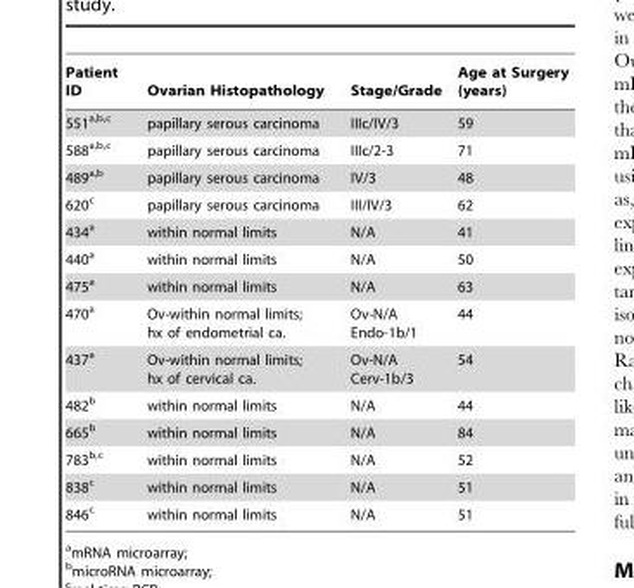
<table><thead><tr><td>Patient ID</td><td>Ovarian Histopathology</td><td>Stage/Grade</td><td>Age at Surgery (years)</td></tr></thead><tbody><tr><td>551a,b,c</td><td>papillary serous carcinoma</td><td>IIIc/IV/3</td><td>59</td></tr><tr><td>588a,b,c</td><td>papillary serous carcinoma</td><td>IIIc/2-3</td><td>71</td></tr><tr><td>489a,b</td><td>papillary serous carcinoma</td><td>IV/3</td><td>48</td></tr><tr><td>620<sup>c</sup></td><td>papillary serous carcinoma</td><td>III/IV/3</td><td>62</td></tr><tr><td>434<sup>a</sup></td><td>within normal limits</td><td>N/A</td><td>41</td></tr><tr><td>440<sup>a</sup></td><td>within normal limits</td><td>N/A</td><td>50</td></tr><tr><td>475<sup>a</sup></td><td>within normal limits</td><td>N/A</td><td>63</td></tr><tr><td>470<sup>a</sup></td><td>Ov-within normal limits; hx of endometrial ca.</td><td>Ov-N/A Endo-1b/1</td><td>44</td></tr><tr><td>437<sup>a</sup></td><td>Ov-within normal limits; hx of cervical ca.</td><td>Ov-N/A Cerv-1b/3</td><td>54</td></tr><tr><td>482<sup>b</sup></td><td>within normal limits</td><td>N/A</td><td>44</td></tr><tr><td>665<sup>b</sup></td><td>within normal limits</td><td>N/A</td><td>84</td></tr><tr><td>783b,c</td><td>within normal limits</td><td>N/A</td><td>52</td></tr><tr><td>838<sup>c</sup></td><td>within normal limits</td><td>N/A</td><td>51</td></tr><tr><td>846<sup>c</sup></td><td>within normal limits</td><td>N/A</td><td>51</td></tr></tbody></table>